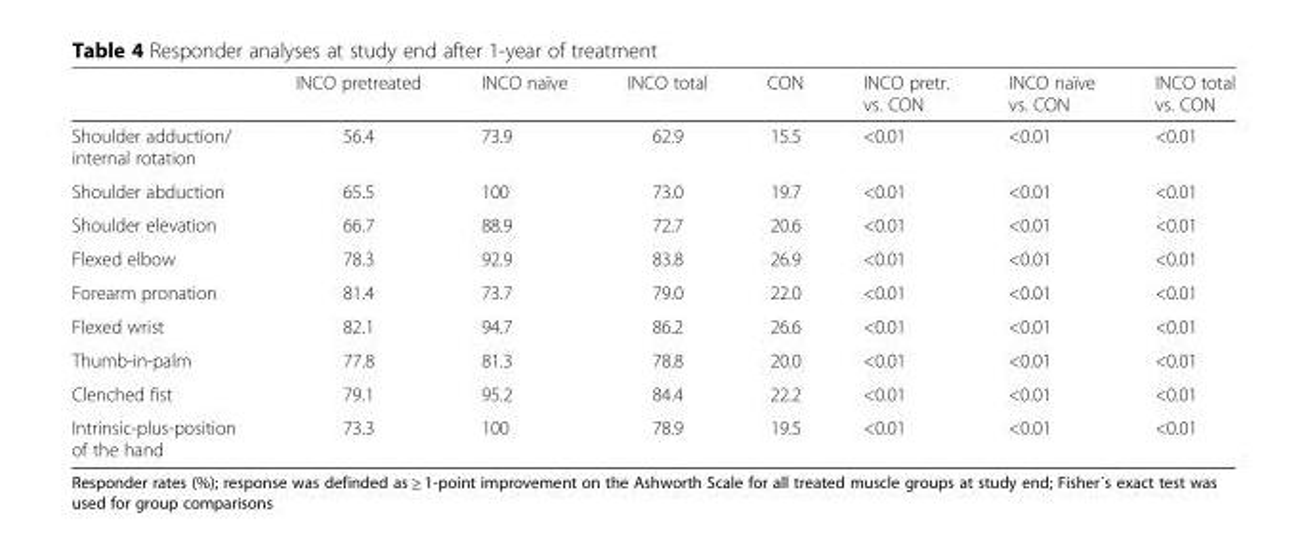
<table><thead><tr><td></td><td>INCO pretreated</td><td>INCO naïve</td><td>INCO total</td><td>CON</td><td>INCO pretr. vs. CON</td><td>INCO naïve vs. CON</td><td>INCO total vs. CON</td></tr></thead><tbody><tr><td>Shoulder adduction/ internal rotation</td><td>56.4</td><td>73.9</td><td>62.9</td><td>15.5</td><td>&lt;0.01</td><td>&lt;0.01</td><td>&lt;0.01</td></tr><tr><td>Shoulder abduction</td><td>65.5</td><td>100</td><td>73.0</td><td>19.7</td><td>&lt;0.01</td><td>&lt;0.01</td><td>&lt;0.01</td></tr><tr><td>Shoulder elevation</td><td>66.7</td><td>88.9</td><td>72.7</td><td>20.6</td><td>&lt;0.01</td><td>&lt;0.01</td><td>&lt;0.01</td></tr><tr><td>Flexed elbow</td><td>78.3</td><td>92.9</td><td>83.8</td><td>26.9</td><td>&lt;0.01</td><td>&lt;0.01</td><td>&lt;0.01</td></tr><tr><td>Forearm pronation</td><td>81.4</td><td>73.7</td><td>79.0</td><td>22.0</td><td>&lt;0.01</td><td>&lt;0.01</td><td>&lt;0.01</td></tr><tr><td>Flexed wrist</td><td>82.1</td><td>94.7</td><td>86.2</td><td>26.6</td><td>&lt;0.01</td><td>&lt;0.01</td><td>&lt;0.01</td></tr><tr><td>Thumb-in-palm</td><td>77.8</td><td>81.3</td><td>78.8</td><td>20.0</td><td>&lt;0.01</td><td>&lt;0.01</td><td>&lt;0.01</td></tr><tr><td>Clenched fist</td><td>79.1</td><td>95.2</td><td>84.4</td><td>22.2</td><td>&lt;0.01</td><td>&lt;0.01</td><td>&lt;0.01</td></tr><tr><td>Intrinsic-plus-position of the hand</td><td>73.3</td><td>100</td><td>78.9</td><td>19.5</td><td>&lt;0.01</td><td>&lt;0.01</td><td>&lt;0.01</td></tr></tbody></table>